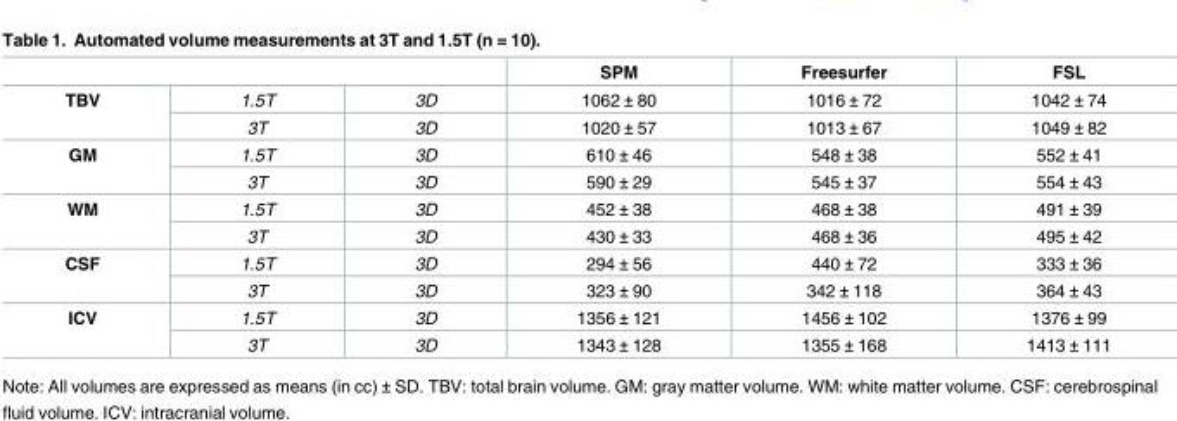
<table><thead><tr><td></td><td></td><td></td><td>SPM</td><td>Freesurfer</td><td>FSL</td></tr></thead><tbody><tr><td rowspan="2">TBV</td><td>1.5T</td><td>3D</td><td>1062 ± 80</td><td>1016 ± 72</td><td>1042 ± 74</td></tr><tr><td>3T</td><td>3D</td><td>1020 ± 57</td><td>1013 ± 67</td><td>1049 ± 82</td></tr><tr><td rowspan="2">GM</td><td>1.5T</td><td>3D</td><td>610 ± 46</td><td>548 ± 38</td><td>552 ± 41</td></tr><tr><td>3T</td><td>3D</td><td>590 ± 29</td><td>545 ± 37</td><td>554 ± 43</td></tr><tr><td rowspan="2">WM</td><td>1.5T</td><td>3D</td><td>452 ± 38</td><td>468 ± 38</td><td>491 ± 39</td></tr><tr><td>3T</td><td>3D</td><td>430 ± 33</td><td>468 ± 36</td><td>495 ± 42</td></tr><tr><td rowspan="2">CSF</td><td>1.5T</td><td>3D</td><td>294 ± 56</td><td>440 ± 72</td><td>333 ± 36</td></tr><tr><td>3T</td><td>3D</td><td>323 ± 90</td><td>342 ± 118</td><td>364 ± 43</td></tr><tr><td rowspan="2">ICV</td><td>1.5T</td><td>3D</td><td>1356 ± 121</td><td>1456 ± 102</td><td>1376 ± 99</td></tr><tr><td>3T</td><td>3D</td><td>1343 ± 128</td><td>1355 ± 168</td><td>1413 ± 111</td></tr></tbody></table>